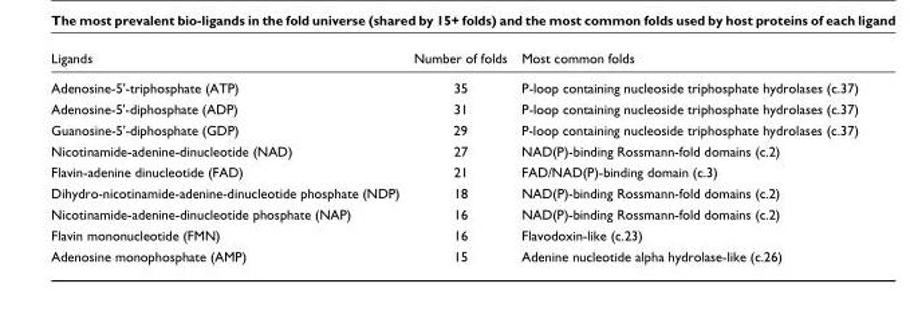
<table><thead><tr><td>Ligands</td><td>Number of folds</td><td>Most common folds</td></tr></thead><tbody><tr><td>Adenosine-5&#x27;-triphosphate (ATP)</td><td>35</td><td>P-loop containing nucleoside triphosphate hydrolases (c.37)</td></tr><tr><td>Adenosine-5&#x27;-diphosphate (ADP)</td><td>31</td><td>P-loop containing nucleoside triphosphate hydrolases (c.37)</td></tr><tr><td>Guanosine-5&#x27;-diphosphate (GDP)</td><td>29</td><td>P-loop containing nucleoside triphosphate hydrolases (c.37)</td></tr><tr><td>Nicotinamide-adenine-dinucleotide (NAD)</td><td>27</td><td>NAD(P)-binding Rossmann-fold domains (c.2)</td></tr><tr><td>Flavin-adenine dinucleotide (FAD)</td><td>21</td><td>FAD/NAD(P)-binding domain (c.3)</td></tr><tr><td>Dihydro-nicotinamide-adenine-dinucleotide phosphate (NDP)</td><td>18</td><td>NAD(P)-binding Rossmann-fold domains (c.2)</td></tr><tr><td>Nicotinamide-adenine-dinucleotide phosphate (NAP)</td><td>16</td><td>NAD(P)-binding Rossmann-fold domains (c.2)</td></tr><tr><td>Flavin mononucleotide (FMN)</td><td>16</td><td>Flavodoxin-like (c.23)</td></tr><tr><td>Adenosine monophosphate (AMP)</td><td>15</td><td>Adenine nucleotide alpha hydrolase-like (c.26)</td></tr></tbody></table>